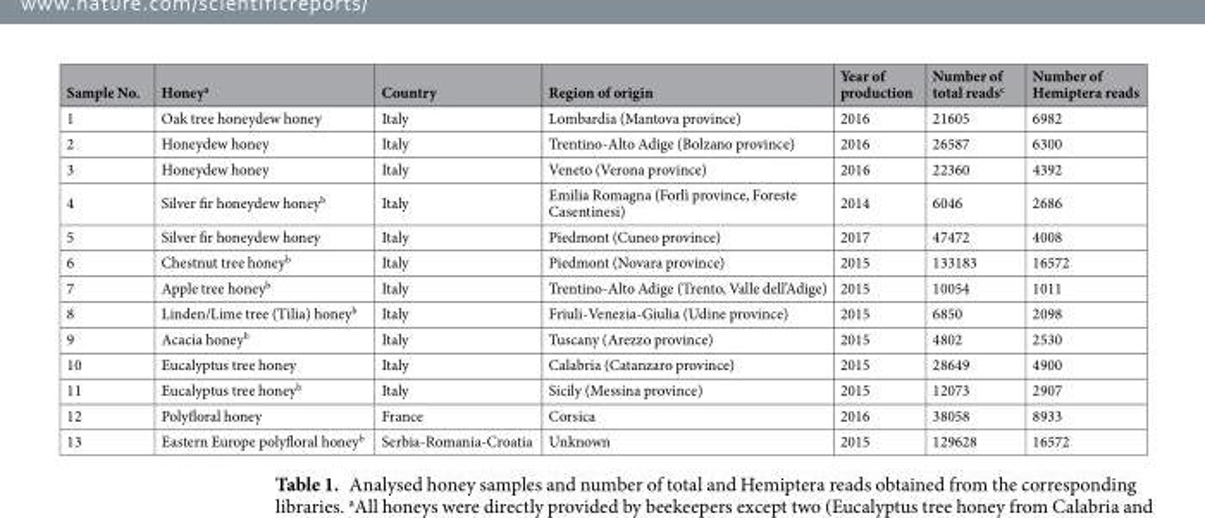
<table><thead><tr><td>Sample No.</td><td>Honey<sup>a</sup></td><td>Country</td><td>Region of origin</td><td>Year of production</td><td>Number of total reads<sup>c</sup></td><td>Number of Hemiptera reads</td></tr></thead><tbody><tr><td>1</td><td>Oak tree honeydew honey</td><td>Italy</td><td>Lombardia (Mantova province)</td><td>2016</td><td>21605</td><td>6982</td></tr><tr><td>2</td><td>Honeydew honey</td><td>Italy</td><td>Trentino-Alto Adige (Bolzano province)</td><td>2016</td><td>26587</td><td>6300</td></tr><tr><td>3</td><td>Honeydew honey</td><td>Italy</td><td>Veneto (Verona province)</td><td>2016</td><td>22360</td><td>4392</td></tr><tr><td>4</td><td>Silver fir honeydew honey<sup>b</sup></td><td>Italy</td><td>Emilia Romagna (Forlì province, Foreste Casentinesi)</td><td>2014</td><td>6046</td><td>2686</td></tr><tr><td>5</td><td>Silver fir honeydew honey</td><td>Italy</td><td>Piedmont (Cuneo province)</td><td>2017</td><td>47472</td><td>4008</td></tr><tr><td>6</td><td>Chestnut tree honey<sup>b</sup></td><td>Italy</td><td>Piedmont (Novara province)</td><td>2015</td><td>133183</td><td>16572</td></tr><tr><td>7</td><td>Apple tree honey<sup>b</sup></td><td>Italy</td><td>Trentino-Alto Adige (Trento, Valle dell’Adige)</td><td>2015</td><td>10054</td><td>1011</td></tr><tr><td>8</td><td>Linden/Lime tree (Tilia) honey<sup>b</sup></td><td>Italy</td><td>Friuli-Venezia-Giulia (Udine province)</td><td>2015</td><td>6850</td><td>2098</td></tr><tr><td>9</td><td>Acacia honey<sup>b</sup></td><td>Italy</td><td>Tuscany (Arezzo province)</td><td>2015</td><td>4802</td><td>2530</td></tr><tr><td>10</td><td>Eucalyptus tree honey</td><td>Italy</td><td>Calabria (Catanzaro province)</td><td>2015</td><td>28649</td><td>4900</td></tr><tr><td>11</td><td>Eucalyptus tree honey<sup>b</sup></td><td>Italy</td><td>Sicily (Messina province)</td><td>2015</td><td>12073</td><td>2907</td></tr><tr><td>12</td><td>Polyfloral honey</td><td>France</td><td>Corsica</td><td>2016</td><td>38058</td><td>8933</td></tr><tr><td>13</td><td>Eastern Europe polyfloral honey<sup>b</sup></td><td>Serbia-Romania-Croatia</td><td>Unknown</td><td>2015</td><td>129628</td><td>16572</td></tr></tbody></table>